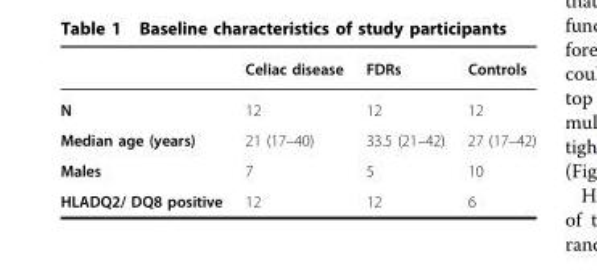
<table><thead><tr><td></td><td>Celiac disease</td><td>FDRs</td><td>Controls</td></tr></thead><tbody><tr><td>N</td><td>12</td><td>12</td><td>12</td></tr><tr><td>Median age (years)</td><td>21 (17–40)</td><td>33.5 (21–42)</td><td>27 (17–42)</td></tr><tr><td>Males</td><td>7</td><td>5</td><td>10</td></tr><tr><td>HLADQ2/ DQ8 positive</td><td>12</td><td>12</td><td>6</td></tr></tbody></table>